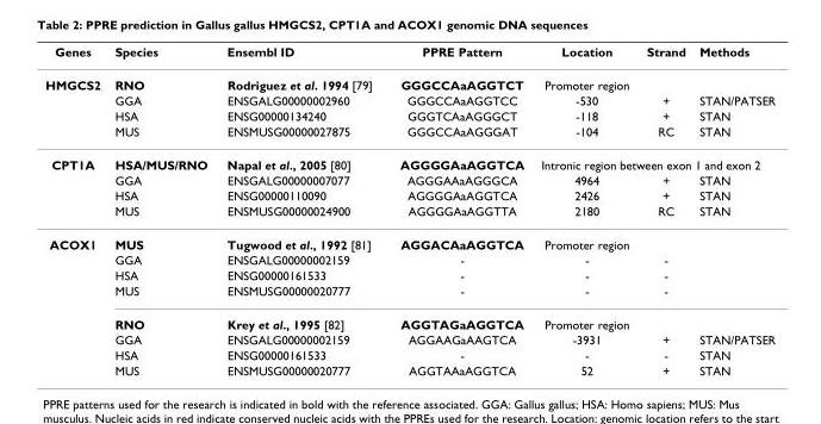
<table><thead><tr><td>Genes</td><td>Species</td><td>Ensembl ID</td><td>PPRE Pattern</td><td>Location</td><td>Strand</td><td>Methods</td></tr></thead><tbody><tr><td rowspan="4">HMGCS2</td><td>RNO</td><td>Rodriguez et al. 1994 [79]</td><td>GGGCCAaAGGTCT</td><td>Promoter region</td><td></td><td></td></tr><tr><td>GGA</td><td>ENSGALG00000002960</td><td>GGGCCAaAGGTCC</td><td>-530</td><td>+</td><td>STAN/PATSER</td></tr><tr><td>HSA</td><td>ENSG00000134240</td><td>GGGTCAaAGGGCT</td><td>-118</td><td>+</td><td>STAN</td></tr><tr><td>MUS</td><td>ENSMUSG00000027875</td><td>GGGCCAaAGGGAT</td><td>-104</td><td>RC</td><td>STAN</td></tr><tr><td rowspan="4">CPT1A</td><td>HSA/MUS/RNO</td><td>Napal et al., 2005 [80]</td><td>AGGGGAaAGGTCA</td><td colspan="3">Intronic region between exon 1 and exon 2</td></tr><tr><td>GGA</td><td>ENSGALG00000007077</td><td>AGGGAAaAGGGCA</td><td>4964</td><td>+</td><td>STAN</td></tr><tr><td>HSA</td><td>ENSG00000110090</td><td>AGGGGAaAGGTCA</td><td>2426</td><td>+</td><td>STAN</td></tr><tr><td>MUS</td><td>ENSMUSG00000024900</td><td>AGGGGAaAGGTTA</td><td>2180</td><td>RC</td><td>STAN</td></tr><tr><td rowspan="8">ACOX1</td><td>MUS</td><td>Tugwood et al., 1992 [81]</td><td>AGGACAaAGGTCA</td><td>Promoter region</td><td></td><td></td></tr><tr><td>GGA</td><td>ENSGALG00000002159</td><td>-</td><td>-</td><td>-</td><td></td></tr><tr><td>HSA</td><td>ENSG00000161533</td><td>-</td><td>-</td><td>-</td><td></td></tr><tr><td>MUS</td><td>ENSMUSG00000020777</td><td>-</td><td>-</td><td>-</td><td></td></tr><tr><td>RNO</td><td>Krey et al., 1995 [82]</td><td>AGGTAGaAGGTCA</td><td>Promoter region</td><td></td><td></td></tr><tr><td>GGA</td><td>ENSGALG00000002159</td><td>AGGAAGaAAGTCA</td><td>-3931</td><td>+</td><td>STAN/PATSER</td></tr><tr><td>HSA</td><td>ENSG00000161533</td><td>-</td><td>-</td><td>-</td><td>STAN</td></tr><tr><td>MUS</td><td>ENSMUSG00000020777</td><td>AGGTAAaAGGTCA</td><td>52</td><td>+</td><td>STAN</td></tr></tbody></table>